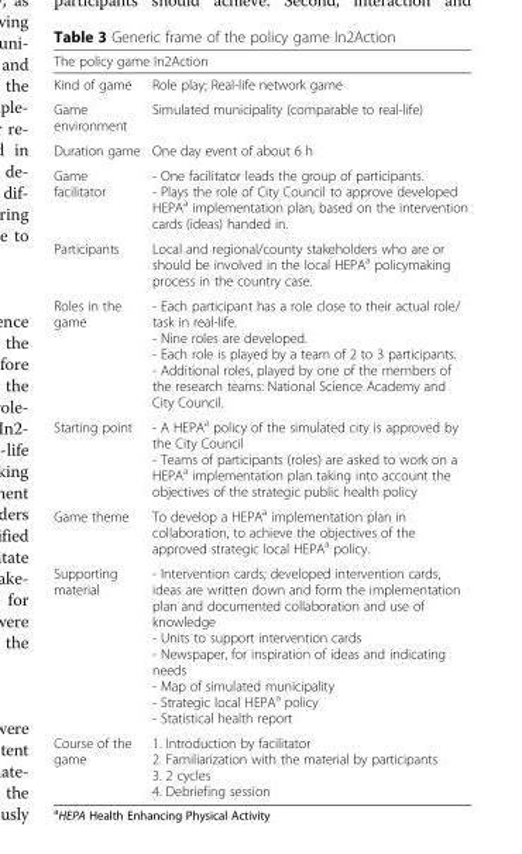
<table><thead><tr><td colspan="2">The policy game In2Action</td></tr><tr><td>Kind of game</td><td>Role play; Real-life network game</td></tr></thead><tbody><tr><td>Game environment</td><td>Simulated municipality (comparable to real-life)</td></tr><tr><td>Duration game</td><td>One day event of about 6 h</td></tr><tr><td>Game facilitator</td><td>- One facilitator leads the group of participants. - Plays the role of City Council to approve developed HEPA<sup>a</sup> implementation plan, based on the intervention cards (ideas) handed in.</td></tr><tr><td>Participants</td><td>Local and regional/county stakeholders who are or should be involved in the local HEPA<sup>a</sup> policymaking process in the country case.</td></tr><tr><td>Roles in the game</td><td>- Each participant has a role close to their actual role/ task in real-life. - Nine roles are developed. - Each role is played by a team of 2 to 3 participants. - Additional roles, played by one of the members of the research teams: National Science Academy and City Council.</td></tr><tr><td>Starting point</td><td>- A HEPA<sup>a</sup> policy of the simulated city is approved by the City Council - Teams of participants (roles) are asked to work on a HEPA<sup>a</sup> implementation plan taking into account the objectives of the strategic public health policy</td></tr><tr><td>Game theme</td><td>To develop a HEPA<sup>a</sup> implementation plan in collaboration, to achieve the objectives of the approved strategic local HEPA<sup>a</sup> policy.</td></tr><tr><td>Supporting material</td><td>- Intervention cards; developed intervention cards, ideas are written down and form the implementation plan and documented collaboration and use of knowledge - Units to support intervention cards - Newspaper, for inspiration of ideas and indicating needs - Map of simulated municipality - Strategic local HEPA<sup>a</sup> policy - Statistical health report</td></tr><tr><td>Course of the game</td><td>1. Introduction by facilitator 2. Familiarization with the material by participants 3. 2 cycles 4. Debriefing session</td></tr></tbody></table>